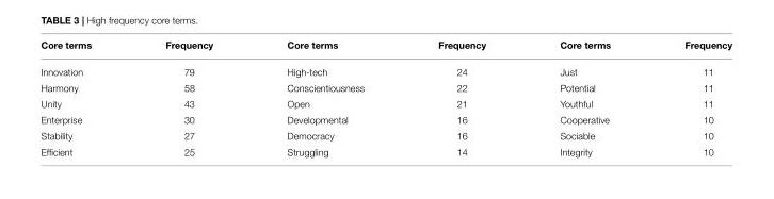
<table><thead><tr><td>Core terms</td><td>Frequency</td><td>Core terms</td><td>Frequency</td><td>Core terms</td><td>Frequency</td></tr></thead><tbody><tr><td>Innovation</td><td>79</td><td>High-tech</td><td>24</td><td>Just</td><td>11</td></tr><tr><td>Harmony</td><td>58</td><td>Conscientiousness</td><td>22</td><td>Potential</td><td>11</td></tr><tr><td>Unity</td><td>43</td><td>Open</td><td>21</td><td>Youthful</td><td>11</td></tr><tr><td>Enterprise</td><td>30</td><td>Developmental</td><td>16</td><td>Cooperative</td><td>10</td></tr><tr><td>Stability</td><td>27</td><td>Democracy</td><td>16</td><td>Sociable</td><td>10</td></tr><tr><td>Efficient</td><td>25</td><td>Struggling</td><td>14</td><td>Integrity</td><td>10</td></tr></tbody></table>